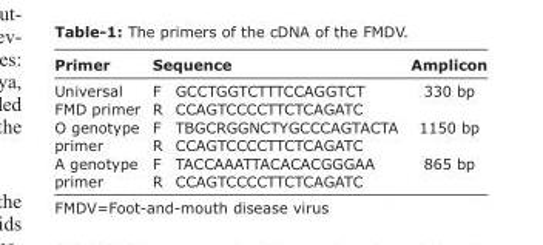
<table><thead><tr><td rowspan="2">Primer Universal FMD primer</td><td colspan="2">Sequence</td><td rowspan="2">Amplicon 330 bp</td></tr><tr><td>F R</td><td>GCCTGGTCTTTCCAGGTCT CCAGTCCCCTTCTCAGATC</td></tr></thead><tbody><tr><td>O genotype primer</td><td>F R</td><td>TBGCRGGNCTYGCCCAGTACTA CCAGTCCCCTTCTCAGATC</td><td>1150 bp</td></tr><tr><td>A genotype primer</td><td>F R</td><td>TACCAAATTACACACGGGAA CCAGTCCCCTTCTCAGATC</td><td>865 bp</td></tr></tbody></table>